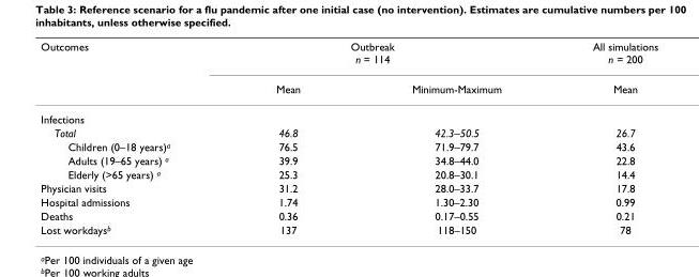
<table><thead><tr><td rowspan="2">Outcomes</td><td colspan="2">Outbreak n = 114</td><td rowspan="2">All simulations n = 200 Mean</td></tr><tr><td>Mean</td><td>Minimum-Maximum</td></tr></thead><tbody><tr><td colspan="4">Infections</td></tr><tr><td>Total</td><td>46.8</td><td>42.3–50.5</td><td>26.7</td></tr><tr><td>Children (0–18 years)a</td><td>76.5</td><td>71.9–79.7</td><td>43.6</td></tr><tr><td>Adults (19–65 years) a</td><td>39.9</td><td>34.8–44.0</td><td>22.8</td></tr><tr><td>Elderly (&gt;65 years) a</td><td>25.3</td><td>20.8–30.1</td><td>14.4</td></tr><tr><td>Physician visits</td><td>31.2</td><td>28.0–33.7</td><td>17.8</td></tr><tr><td>Hospital admissions</td><td>1.74</td><td>1.30–2.30</td><td>0.99</td></tr><tr><td>Deaths</td><td>0.36</td><td>0.17–0.55</td><td>0.21</td></tr><tr><td>Lost workdaysb</td><td>137</td><td>118–150</td><td>78</td></tr></tbody></table>